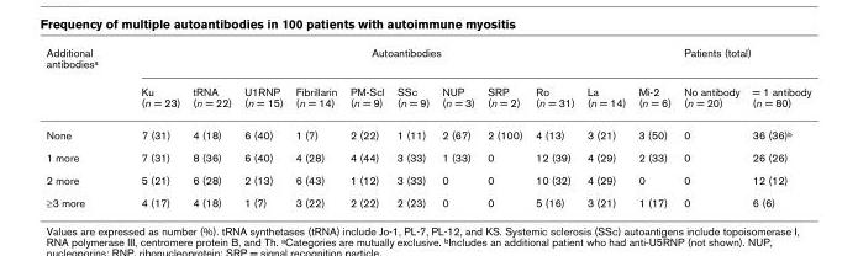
<table><thead><tr><td rowspan="2">Additional antibodies<sup>a</sup></td><td colspan="11">Autoantibodies</td><td colspan="2">Patients (total)</td></tr><tr><td>Ku (n = 23)</td><td>tRNA (n = 22)</td><td>U1RNP (n = 15)</td><td>Fibrillarin (n = 14)</td><td>PM-Scl (n = 9)</td><td>SSc (n = 9)</td><td>NUP (n = 3)</td><td>SRP (n = 2)</td><td>Ro (n = 31)</td><td>La (n = 14)</td><td>Mi-2 (n = 6)</td><td>No antibody (n = 20)</td><td>= 1 antibody (n = 80)</td></tr></thead><tbody><tr><td>None</td><td>7 (31)</td><td>4 (18)</td><td>6 (40)</td><td>1 (7)</td><td>2 (22)</td><td>1 (11)</td><td>2 (67)</td><td>2 (100)</td><td>4 (13)</td><td>3 (21)</td><td>3 (50)</td><td>0</td><td>36 (36)<sup>b</sup></td></tr><tr><td>1 more</td><td>7 (31)</td><td>8 (36)</td><td>6 (40)</td><td>4 (28)</td><td>4 (44)</td><td>3 (33)</td><td>1 (33)</td><td>0</td><td>12 (39)</td><td>4 (29)</td><td>2 (33)</td><td>0</td><td>26 (26)</td></tr><tr><td>2 more</td><td>5 (21)</td><td>6 (28)</td><td>2 (13)</td><td>6 (43)</td><td>1 (12)</td><td>3 (33)</td><td>0</td><td>0</td><td>10 (32)</td><td>4 (29)</td><td>0</td><td>0</td><td>12 (12)</td></tr><tr><td>≥3 more</td><td>4 (17)</td><td>4 (18)</td><td>1 (7)</td><td>3 (22)</td><td>2 (22)</td><td>2 (23)</td><td>0</td><td>0</td><td>5 (16)</td><td>3 (21)</td><td>1 (17)</td><td>0</td><td>6 (6)</td></tr></tbody></table>